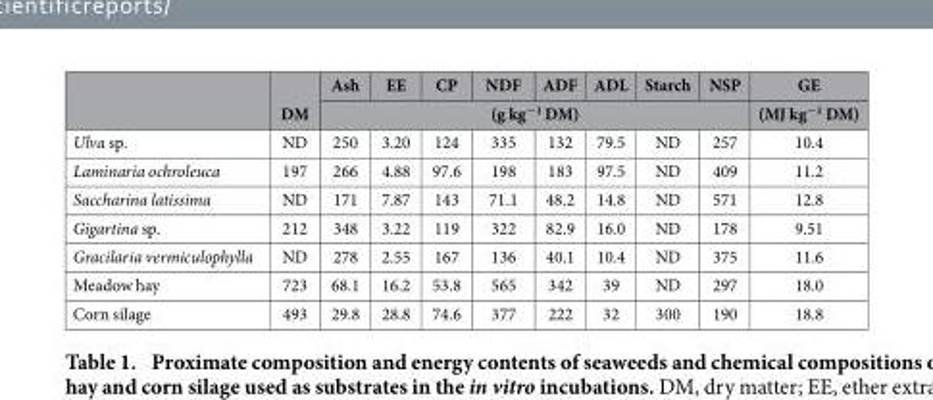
<table><thead><tr><td rowspan="2"></td><td rowspan="2">DM</td><td>Ash</td><td>EE</td><td>CP</td><td>NDF</td><td>ADF</td><td>ADL</td><td>Starch</td><td>NSP</td><td rowspan="2">GE (MJ kg<sup>−1</sup> DM)</td></tr><tr><td colspan="8">(g kg<sup>−1</sup> DM)</td></tr></thead><tbody><tr><td>Ulva sp.</td><td>ND</td><td>250</td><td>3.20</td><td>124</td><td>335</td><td>132</td><td>79.5</td><td>ND</td><td>257</td><td>10.4</td></tr><tr><td>Laminaria ochroleuca</td><td>197</td><td>266</td><td>4.88</td><td>97.6</td><td>198</td><td>183</td><td>97.5</td><td>ND</td><td>409</td><td>11.2</td></tr><tr><td>Saccharina latissima</td><td>ND</td><td>171</td><td>7.87</td><td>143</td><td>71.1</td><td>48.2</td><td>14.8</td><td>ND</td><td>571</td><td>12.8</td></tr><tr><td>Gigartina sp.</td><td>212</td><td>348</td><td>3.22</td><td>119</td><td>322</td><td>82.9</td><td>16.0</td><td>ND</td><td>178</td><td>9.51</td></tr><tr><td>Gracilaria vermiculophylla</td><td>ND</td><td>278</td><td>2.55</td><td>167</td><td>136</td><td>40.1</td><td>10.4</td><td>ND</td><td>375</td><td>11.6</td></tr><tr><td>Meadow hay</td><td>723</td><td>68.1</td><td>16.2</td><td>53.8</td><td>565</td><td>342</td><td>39</td><td>ND</td><td>297</td><td>18.0</td></tr><tr><td>Corn silage</td><td>493</td><td>29.8</td><td>28.8</td><td>74.6</td><td>377</td><td>222</td><td>32</td><td>300</td><td>190</td><td>18.8</td></tr></tbody></table>